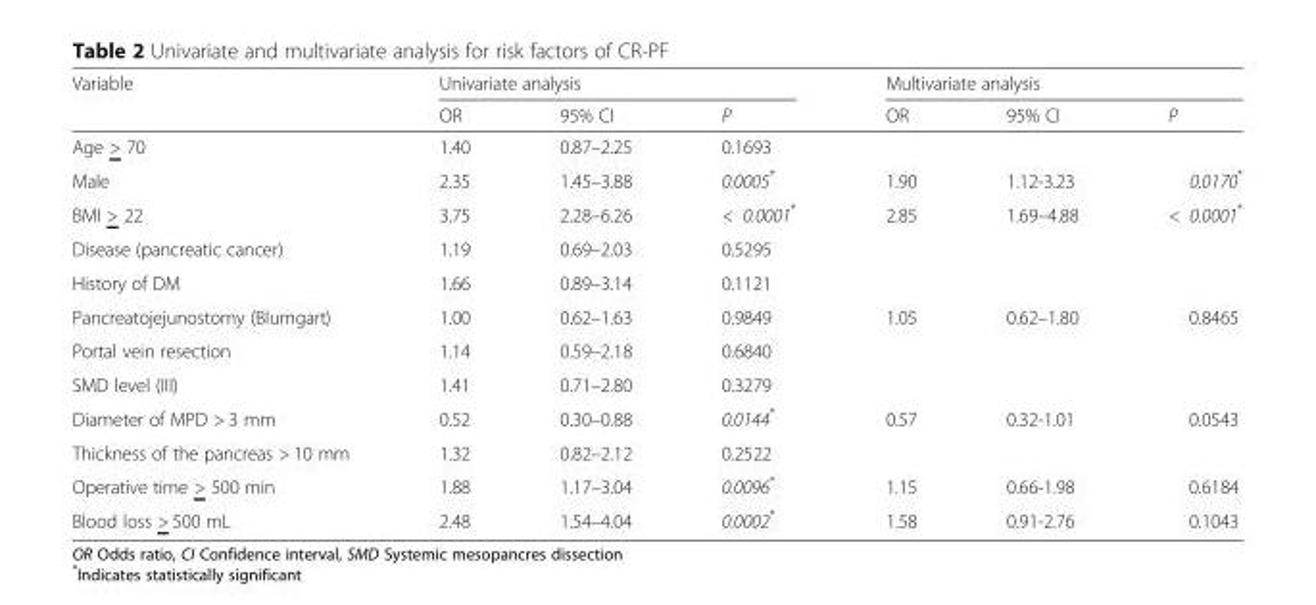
<table><thead><tr><td rowspan="2">Variable</td><td colspan="3">Univariate analysis</td><td colspan="3">Multivariate analysis</td></tr><tr><td>OR</td><td>95% CI</td><td>P</td><td>OR</td><td>95% CI</td><td>P</td></tr></thead><tbody><tr><td>Age &gt; 70</td><td>1.40</td><td>0.87–2.25</td><td>0.1693</td><td></td><td></td><td></td></tr><tr><td>Male</td><td>2.35</td><td>1.45–3.88</td><td>0.0005*</td><td>1.90</td><td>1.12-3.23</td><td>0.0170*</td></tr><tr><td>BMI &gt; 22</td><td>3.75</td><td>2.28–6.26</td><td>&lt; 0.0001*</td><td>2.85</td><td>1.69–4.88</td><td>&lt; 0.0001*</td></tr><tr><td>Disease (pancreatic cancer)</td><td>1.19</td><td>0.69–2.03</td><td>0.5295</td><td></td><td></td><td></td></tr><tr><td>History of DM</td><td>1.66</td><td>0.89–3.14</td><td>0.1121</td><td></td><td></td><td></td></tr><tr><td>Pancreatojejunostomy (Blumgart)</td><td>1.00</td><td>0.62–1.63</td><td>0.9849</td><td>1.05</td><td>0.62–1.80</td><td>0.8465</td></tr><tr><td>Portal vein resection</td><td>1.14</td><td>0.59–2.18</td><td>0.6840</td><td></td><td></td><td></td></tr><tr><td>SMD level (III)</td><td>1.41</td><td>0.71–2.80</td><td>0.3279</td><td></td><td></td><td></td></tr><tr><td>Diameter of MPD &gt; 3 mm</td><td>0.52</td><td>0.30–0.88</td><td>0.0144*</td><td>0.57</td><td>0.32-1.01</td><td>0.0543</td></tr><tr><td>Thickness of the pancreas &gt; 10 mm</td><td>1.32</td><td>0.82–2.12</td><td>0.2522</td><td></td><td></td><td></td></tr><tr><td>Operative time &gt; 500 min</td><td>1.88</td><td>1.17–3.04</td><td>0.0096*</td><td>1.15</td><td>0.66-1.98</td><td>0.6184</td></tr><tr><td>Blood loss &gt; 500 mL</td><td>2.48</td><td>1.54–4.04</td><td>0.0002*</td><td>1.58</td><td>0.91-2.76</td><td>0.1043</td></tr></tbody></table>